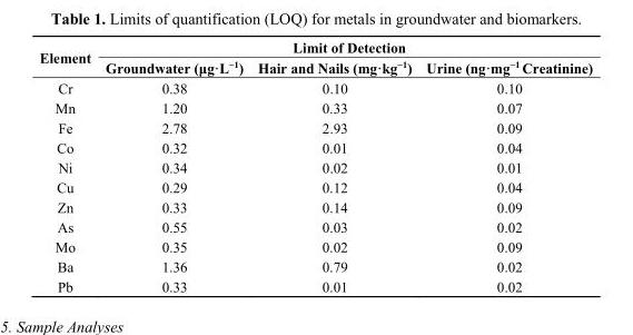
<table><thead><tr><td rowspan="2">Element</td><td colspan="3">Limit of Detection</td></tr><tr><td>Groundwater (μg·L<sup>−1</sup>)</td><td>Hair and Nails (mg·kg<sup>−1</sup>)</td><td>Urine (ng·mg<sup>−1</sup> Creatinine)</td></tr></thead><tbody><tr><td>Cr</td><td>0.38</td><td>0.10</td><td>0.10</td></tr><tr><td>Mn</td><td>1.20</td><td>0.33</td><td>0.07</td></tr><tr><td>Fe</td><td>2.78</td><td>2.93</td><td>0.09</td></tr><tr><td>Co</td><td>0.32</td><td>0.01</td><td>0.04</td></tr><tr><td>Ni</td><td>0.34</td><td>0.02</td><td>0.01</td></tr><tr><td>Cu</td><td>0.29</td><td>0.12</td><td>0.04</td></tr><tr><td>Zn</td><td>0.33</td><td>0.14</td><td>0.09</td></tr><tr><td>As</td><td>0.55</td><td>0.03</td><td>0.02</td></tr><tr><td>Mo</td><td>0.35</td><td>0.02</td><td>0.09</td></tr><tr><td>Ba</td><td>1.36</td><td>0.79</td><td>0.02</td></tr><tr><td>Pb</td><td>0.33</td><td>0.01</td><td>0.02</td></tr></tbody></table>